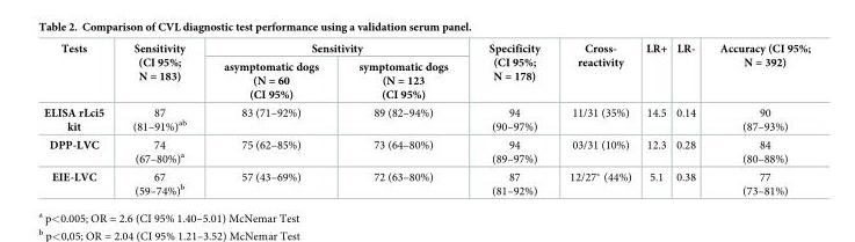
<table><thead><tr><td rowspan="2">Tests</td><td rowspan="2">Sensitivity (CI 95%; N = 183)</td><td colspan="2">Sensitivity</td><td rowspan="2">Specificity (CI 95%; N = 178)</td><td rowspan="2">Cross- reactivity</td><td rowspan="2">LR+</td><td rowspan="2">LR-</td><td rowspan="2">Accuracy (CI 95%; N = 392)</td></tr><tr><td>asymptomatic dogs (N = 60 (CI 95%)</td><td>symptomatic dogs (N = 123 (CI 95%)</td></tr></thead><tbody><tr><td>ELISA rLci5 kit</td><td>87 (81–91%)<sup>ab</sup></td><td>83 (71–92%)</td><td>89 (82–94%)</td><td>94 (90–97%)</td><td>11/31 (35%)</td><td>14.5</td><td>0.14</td><td>90 (87–93%)</td></tr><tr><td>DPP-LVC</td><td>74 (67–80%)<sup>a</sup></td><td>75 (62–85%)</td><td>73 (64–80%)</td><td>94 (89–97%)</td><td>03/31 (10%)</td><td>12.3</td><td>0.28</td><td>84 (80–88%)</td></tr><tr><td>EIE-LVC</td><td>67 (59–74%)<sup>b</sup></td><td>57 (43–69%)</td><td>72 (63–80%)</td><td>87 (81–92%)</td><td>12/27* (44%)</td><td>5.1</td><td>0.38</td><td>77 (73–81%)</td></tr></tbody></table>